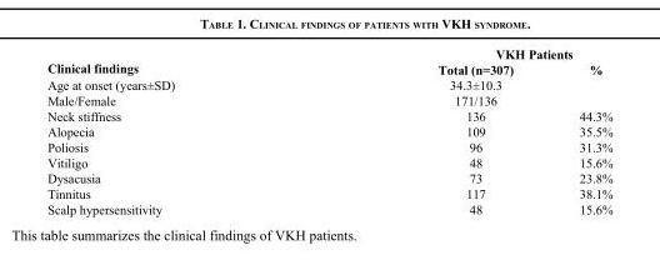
<table><thead><tr><td rowspan="2">Clinical findings</td><td colspan="2">VKH Patients</td></tr><tr><td>Total (n=307)</td><td>%</td></tr></thead><tbody><tr><td>Age at onset (years±SD)</td><td>34.3±10.3</td><td></td></tr><tr><td>Male/Female</td><td>171/136</td><td></td></tr><tr><td>Neck stiffness</td><td>136</td><td>44.3%</td></tr><tr><td>Alopecia</td><td>109</td><td>35.5%</td></tr><tr><td>Poliosis</td><td>96</td><td>31.3%</td></tr><tr><td>Vitiligo</td><td>48</td><td>15.6%</td></tr><tr><td>Dysacusia</td><td>73</td><td>23.8%</td></tr><tr><td>Tinnitus</td><td>117</td><td>38.1%</td></tr><tr><td>Scalp hypersensitivity</td><td>48</td><td>15.6%</td></tr></tbody></table>